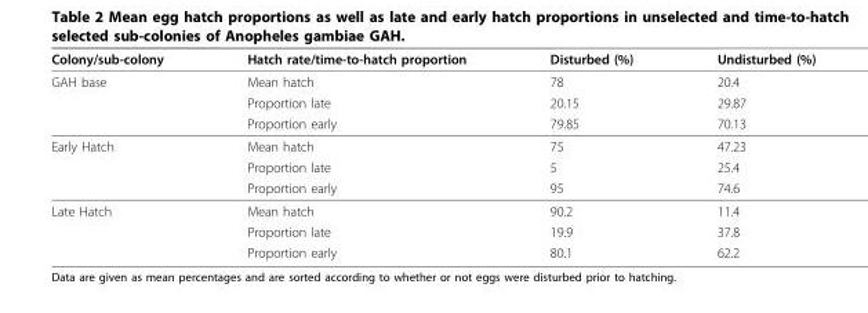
<table><thead><tr><td>Colony/sub-colony</td><td>Hatch rate/time-to-hatch proportion</td><td>Disturbed (%)</td><td>Undisturbed (%)</td></tr></thead><tbody><tr><td rowspan="3">GAH base</td><td>Mean hatch</td><td>78</td><td>20.4</td></tr><tr><td>Proportion late</td><td>20.15</td><td>29.87</td></tr><tr><td>Proportion early</td><td>79.85</td><td>70.13</td></tr><tr><td rowspan="3">Early Hatch</td><td>Mean hatch</td><td>75</td><td>47.23</td></tr><tr><td>Proportion late</td><td>5</td><td>25.4</td></tr><tr><td>Proportion early</td><td>95</td><td>74.6</td></tr><tr><td rowspan="3">Late Hatch</td><td>Mean hatch</td><td>90.2</td><td>11.4</td></tr><tr><td>Proportion late</td><td>19.9</td><td>37.8</td></tr><tr><td>Proportion early</td><td>80.1</td><td>62.2</td></tr></tbody></table>